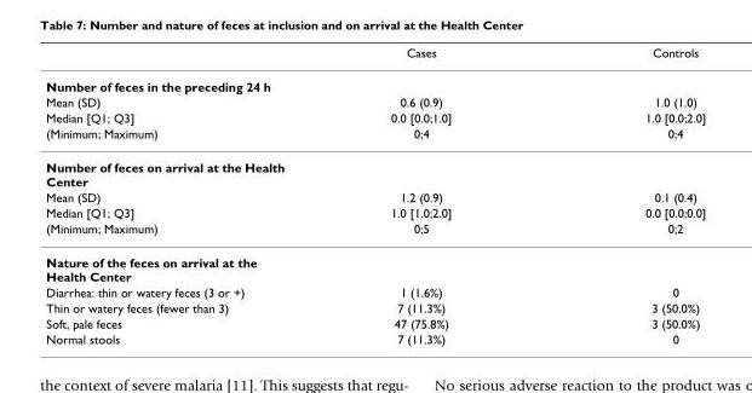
<table><thead><tr><td></td><td>Cases</td><td>Controls</td></tr></thead><tbody><tr><td colspan="3">Number of feces in the preceding 24 h</td></tr><tr><td>Mean (SD)</td><td>0.6 (0.9)</td><td>1.0 (1.0)</td></tr><tr><td>Median [Q1; Q3]</td><td>0.0 [0.0;1.0]</td><td>1.0 [0.0;2.0]</td></tr><tr><td>(Minimum; Maximum)</td><td>0;4</td><td>0;4</td></tr><tr><td colspan="3">Number of feces on arrival at the Health Center</td></tr><tr><td>Mean (SD)</td><td>1.2 (0.9)</td><td>0.1 (0.4)</td></tr><tr><td>Median [Q1; Q3]</td><td>1.0 [1.0;2.0]</td><td>0.0 [0.0;0.0]</td></tr><tr><td>(Minimum; Maximum)</td><td>0;5</td><td>0;2</td></tr><tr><td colspan="3">Nature of the feces on arrival at the Health Center</td></tr><tr><td>Diarrhea: thin or watery feces (3 or +)</td><td>1 (1.6%)</td><td>0</td></tr><tr><td>Thin or watery feces (fewer than 3)</td><td>7 (11.3%)</td><td>3 (50.0%)</td></tr><tr><td>Soft, pale feces</td><td>47 (75.8%)</td><td>3 (50.0%)</td></tr><tr><td>Normal stools</td><td>7 (11.3%)</td><td>0</td></tr></tbody></table>